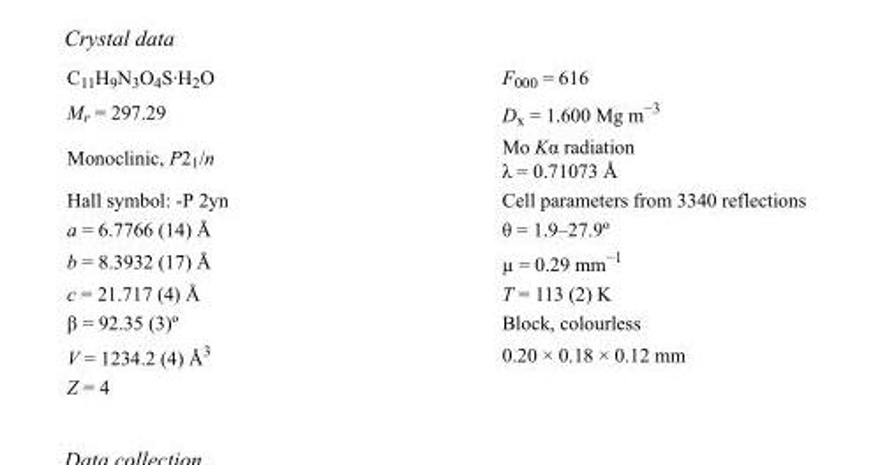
<table><tbody><tr><td>C<sub>11</sub>H<sub>9</sub>N<sub>3</sub>O<sub>4</sub>S·H<sub>2</sub>O</td><td>F000 = 616</td></tr><tr><td>M<sub>r</sub> = 297.29</td><td>D<sub>x</sub> = 1.600 Mg m<sup>−3</sup></td></tr><tr><td>Monoclinic, P2<sub>1</sub>/n</td><td>Mo Kα radiation λ = 0.71073 Å</td></tr><tr><td>Hall symbol: -P 2yn</td><td>Cell parameters from 3340 reflections</td></tr><tr><td>a = 6.7766 (14) Å</td><td>θ = 1.9–27.9º</td></tr><tr><td>b = 8.3932 (17) Å</td><td>µ = 0.29 mm<sup>−1</sup></td></tr><tr><td>c = 21.717 (4) Å</td><td>T = 113 (2) K</td></tr><tr><td>β = 92.35 (3)º</td><td>Block, colourless</td></tr><tr><td>V = 1234.2 (4) Å<sup>3</sup></td><td>0.20 × 0.18 × 0.12 mm</td></tr><tr><td>Z = 4</td><td></td></tr></tbody></table>